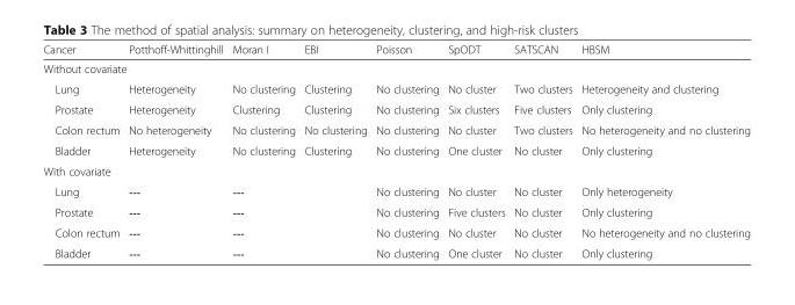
<table><thead><tr><td>Cancer</td><td>Potthoff-Whittinghill</td><td>Moran I</td><td>EBI</td><td>Poisson</td><td>SpODT</td><td>SATSCAN</td><td>HBSM</td></tr></thead><tbody><tr><td colspan="8">Without covariate</td></tr><tr><td>Lung</td><td>Heterogeneity</td><td>No clustering</td><td>Clustering</td><td>No clustering</td><td>No cluster</td><td>Two clusters</td><td>Heterogeneity and clustering</td></tr><tr><td>Prostate</td><td>Heterogeneity</td><td>Clustering</td><td>Clustering</td><td>No clustering</td><td>Six clusters</td><td>Five clusters</td><td>Only clustering</td></tr><tr><td>Colon rectum</td><td>No heterogeneity</td><td>No clustering</td><td>No clustering</td><td>No clustering</td><td>No cluster</td><td>Two clusters</td><td>No heterogeneity and no clustering</td></tr><tr><td>Bladder</td><td>Heterogeneity</td><td>No clustering</td><td>Clustering</td><td>No clustering</td><td>One cluster</td><td>No cluster</td><td>Only clustering</td></tr><tr><td colspan="8">With covariate</td></tr><tr><td>Lung</td><td>---</td><td>---</td><td></td><td>No clustering</td><td>No cluster</td><td>No cluster</td><td>Only heterogeneity</td></tr><tr><td>Prostate</td><td>---</td><td>---</td><td></td><td>No clustering</td><td>Five clusters</td><td>No cluster</td><td>Only clustering</td></tr><tr><td>Colon rectum</td><td>---</td><td>---</td><td></td><td>No clustering</td><td>No cluster</td><td>No cluster</td><td>No heterogeneity and no clustering</td></tr><tr><td>Bladder</td><td>---</td><td>---</td><td></td><td>No clustering</td><td>One cluster</td><td>No cluster</td><td>Only clustering</td></tr></tbody></table>